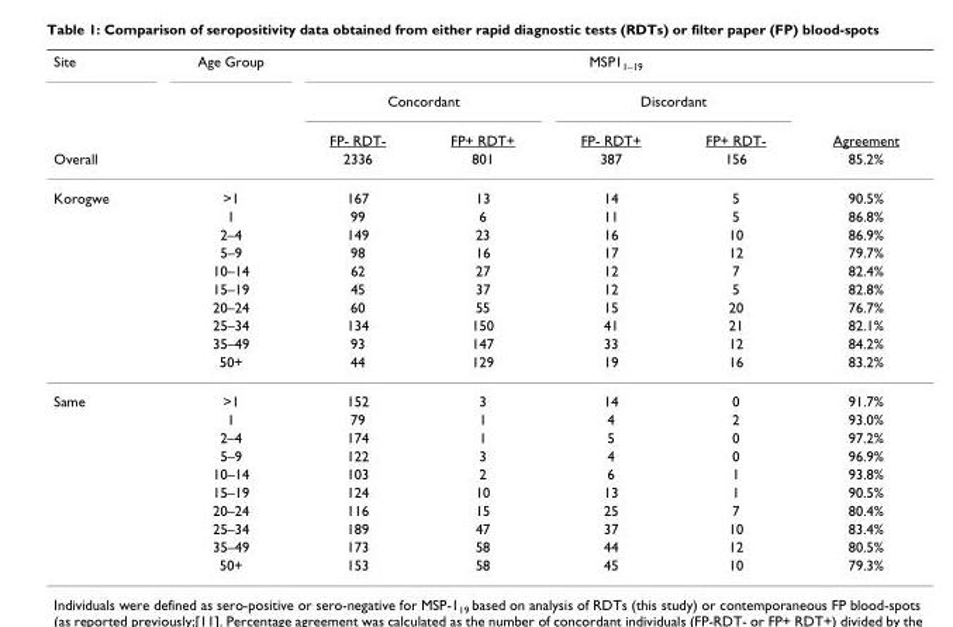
<table><thead><tr><td rowspan="4">Site Overall</td><td rowspan="4">Age Group</td><td colspan="5">MSP1<sub>1–19</sub></td></tr><tr><td colspan="2">Concordant</td><td colspan="2">Discordant</td><td rowspan="3">Agreement 85.2%</td></tr><tr><td rowspan="2">FP- RDT- 2336</td><td rowspan="2">FP+ RDT+ 801</td><td rowspan="2">FP- RDT+ 387</td><td rowspan="2">FP+ RDT- 156</td></tr><tr></tr></thead><tbody><tr><td rowspan="10">Korogwe</td><td>&gt;1</td><td>167</td><td>13</td><td>14</td><td>5</td><td>90.5%</td></tr><tr><td>1</td><td>99</td><td>6</td><td>11</td><td>5</td><td>86.8%</td></tr><tr><td>2–4</td><td>149</td><td>23</td><td>16</td><td>10</td><td>86.9%</td></tr><tr><td>5–9</td><td>98</td><td>16</td><td>17</td><td>12</td><td>79.7%</td></tr><tr><td>10–14</td><td>62</td><td>27</td><td>12</td><td>7</td><td>82.4%</td></tr><tr><td>15–19</td><td>45</td><td>37</td><td>12</td><td>5</td><td>82.8%</td></tr><tr><td>20–24</td><td>60</td><td>55</td><td>15</td><td>20</td><td>76.7%</td></tr><tr><td>25–34</td><td>134</td><td>150</td><td>41</td><td>21</td><td>82.1%</td></tr><tr><td>35–49</td><td>93</td><td>147</td><td>33</td><td>12</td><td>84.2%</td></tr><tr><td>50+</td><td>44</td><td>129</td><td>19</td><td>16</td><td>83.2%</td></tr><tr><td rowspan="10">Same</td><td>&gt;1</td><td>152</td><td>3</td><td>14</td><td>0</td><td>91.7%</td></tr><tr><td>1</td><td>79</td><td>1</td><td>4</td><td>2</td><td>93.0%</td></tr><tr><td>2–4</td><td>174</td><td>1</td><td>5</td><td>0</td><td>97.2%</td></tr><tr><td>5–9</td><td>122</td><td>3</td><td>4</td><td>0</td><td>96.9%</td></tr><tr><td>10–14</td><td>103</td><td>2</td><td>6</td><td>1</td><td>93.8%</td></tr><tr><td>15–19</td><td>124</td><td>10</td><td>13</td><td>1</td><td>90.5%</td></tr><tr><td>20–24</td><td>116</td><td>15</td><td>25</td><td>7</td><td>80.4%</td></tr><tr><td>25–34</td><td>189</td><td>47</td><td>37</td><td>10</td><td>83.4%</td></tr><tr><td>35–49</td><td>173</td><td>58</td><td>44</td><td>12</td><td>80.5%</td></tr><tr><td>50+</td><td>153</td><td>58</td><td>45</td><td>10</td><td>79.3%</td></tr></tbody></table>